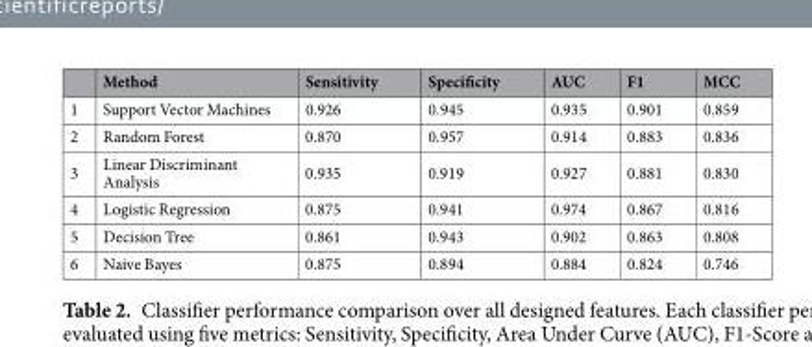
<table><thead><tr><td></td><td>Method</td><td>Sensitivity</td><td>Specificity</td><td>AUC</td><td>F1</td><td>MCC</td></tr></thead><tbody><tr><td>1</td><td>Support Vector Machines</td><td>0.926</td><td>0.945</td><td>0.935</td><td>0.901</td><td>0.859</td></tr><tr><td>2</td><td>Random Forest</td><td>0.870</td><td>0.957</td><td>0.914</td><td>0.883</td><td>0.836</td></tr><tr><td>3</td><td>Linear Discriminant Analysis</td><td>0.935</td><td>0.919</td><td>0.927</td><td>0.881</td><td>0.830</td></tr><tr><td>4</td><td>Logistic Regression</td><td>0.875</td><td>0.941</td><td>0.974</td><td>0.867</td><td>0.816</td></tr><tr><td>5</td><td>Decision Tree</td><td>0.861</td><td>0.943</td><td>0.902</td><td>0.863</td><td>0.808</td></tr><tr><td>6</td><td>Naive Bayes</td><td>0.875</td><td>0.894</td><td>0.884</td><td>0.824</td><td>0.746</td></tr></tbody></table>